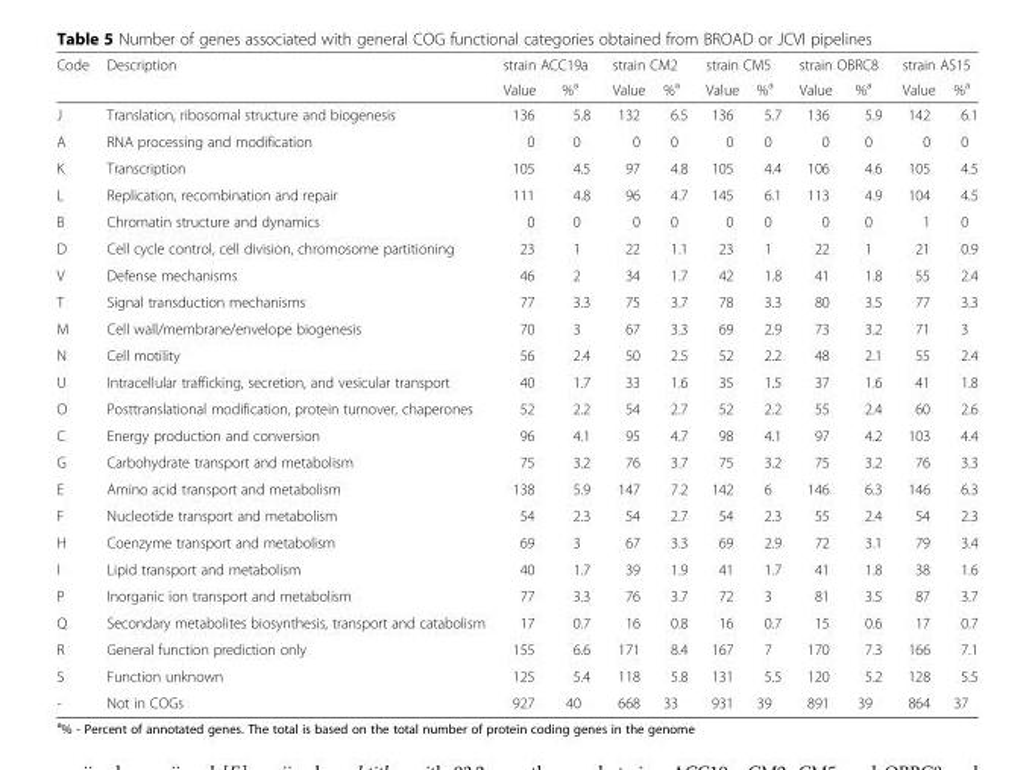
<table><thead><tr><td rowspan="2">Code</td><td rowspan="2">Description</td><td colspan="2">strain ACC19a</td><td colspan="2">strain CM2</td><td colspan="2">strain CM5</td><td colspan="2">strain OBRC8</td><td colspan="2">strain AS15</td></tr><tr><td>Value</td><td>%<sup>a</sup></td><td>Value</td><td>%<sup>a</sup></td><td>Value</td><td>%<sup>a</sup></td><td>Value</td><td>%<sup>a</sup></td><td>Value</td><td>%<sup>a</sup></td></tr></thead><tbody><tr><td>J</td><td>Translation, ribosomal structure and biogenesis</td><td>136</td><td>5.8</td><td>132</td><td>6.5</td><td>136</td><td>5.7</td><td>136</td><td>5.9</td><td>142</td><td>6.1</td></tr><tr><td>A</td><td>RNA processing and modification</td><td>0</td><td>0</td><td>0</td><td>0</td><td>0</td><td>0</td><td>0</td><td>0</td><td>0</td><td>0</td></tr><tr><td>K</td><td>Transcription</td><td>105</td><td>4.5</td><td>97</td><td>4.8</td><td>105</td><td>4.4</td><td>106</td><td>4.6</td><td>105</td><td>4.5</td></tr><tr><td>L</td><td>Replication, recombination and repair</td><td>111</td><td>4.8</td><td>96</td><td>4.7</td><td>145</td><td>6.1</td><td>113</td><td>4.9</td><td>104</td><td>4.5</td></tr><tr><td>B</td><td>Chromatin structure and dynamics</td><td>0</td><td>0</td><td>0</td><td>0</td><td>0</td><td>0</td><td>0</td><td>0</td><td>1</td><td>0</td></tr><tr><td>D</td><td>Cell cycle control, cell division, chromosome partitioning</td><td>23</td><td>1</td><td>22</td><td>1.1</td><td>23</td><td>1</td><td>22</td><td>1</td><td>21</td><td>0.9</td></tr><tr><td>V</td><td>Defense mechanisms</td><td>46</td><td>2</td><td>34</td><td>1.7</td><td>42</td><td>1.8</td><td>41</td><td>1.8</td><td>55</td><td>2.4</td></tr><tr><td>T</td><td>Signal transduction mechanisms</td><td>77</td><td>3.3</td><td>75</td><td>3.7</td><td>78</td><td>3.3</td><td>80</td><td>3.5</td><td>77</td><td>3.3</td></tr><tr><td>M</td><td>Cell wall/membrane/envelope biogenesis</td><td>70</td><td>3</td><td>67</td><td>3.3</td><td>69</td><td>2.9</td><td>73</td><td>3.2</td><td>71</td><td>3</td></tr><tr><td>N</td><td>Cell motility</td><td>56</td><td>2.4</td><td>50</td><td>2.5</td><td>52</td><td>2.2</td><td>48</td><td>2.1</td><td>55</td><td>2.4</td></tr><tr><td>U</td><td>Intracellular trafficking, secretion, and vesicular transport</td><td>40</td><td>1.7</td><td>33</td><td>1.6</td><td>35</td><td>1.5</td><td>37</td><td>1.6</td><td>41</td><td>1.8</td></tr><tr><td>O</td><td>Posttranslational modification, protein turnover, chaperones</td><td>52</td><td>2.2</td><td>54</td><td>2.7</td><td>52</td><td>2.2</td><td>55</td><td>2.4</td><td>60</td><td>2.6</td></tr><tr><td>C</td><td>Energy production and conversion</td><td>96</td><td>4.1</td><td>95</td><td>4.7</td><td>98</td><td>4.1</td><td>97</td><td>4.2</td><td>103</td><td>4.4</td></tr><tr><td>G</td><td>Carbohydrate transport and metabolism</td><td>75</td><td>3.2</td><td>76</td><td>3.7</td><td>75</td><td>3.2</td><td>75</td><td>3.2</td><td>76</td><td>3.3</td></tr><tr><td>E</td><td>Amino acid transport and metabolism</td><td>138</td><td>5.9</td><td>147</td><td>7.2</td><td>142</td><td>6</td><td>146</td><td>6.3</td><td>146</td><td>6.3</td></tr><tr><td>F</td><td>Nucleotide transport and metabolism</td><td>54</td><td>2.3</td><td>54</td><td>2.7</td><td>54</td><td>2.3</td><td>55</td><td>2.4</td><td>54</td><td>2.3</td></tr><tr><td>H</td><td>Coenzyme transport and metabolism</td><td>69</td><td>3</td><td>67</td><td>3.3</td><td>69</td><td>2.9</td><td>72</td><td>3.1</td><td>79</td><td>3.4</td></tr><tr><td>I</td><td>Lipid transport and metabolism</td><td>40</td><td>1.7</td><td>39</td><td>1.9</td><td>41</td><td>1.7</td><td>41</td><td>1.8</td><td>38</td><td>1.6</td></tr><tr><td>P</td><td>Inorganic ion transport and metabolism</td><td>77</td><td>3.3</td><td>76</td><td>3.7</td><td>72</td><td>3</td><td>81</td><td>3.5</td><td>87</td><td>3.7</td></tr><tr><td>Q</td><td>Secondary metabolites biosynthesis, transport and catabolism</td><td>17</td><td>0.7</td><td>16</td><td>0.8</td><td>16</td><td>0.7</td><td>15</td><td>0.6</td><td>17</td><td>0.7</td></tr><tr><td>R</td><td>General function prediction only</td><td>155</td><td>6.6</td><td>171</td><td>8.4</td><td>167</td><td>7</td><td>170</td><td>7.3</td><td>166</td><td>7.1</td></tr><tr><td>S</td><td>Function unknown</td><td>125</td><td>5.4</td><td>118</td><td>5.8</td><td>131</td><td>5.5</td><td>120</td><td>5.2</td><td>128</td><td>5.5</td></tr><tr><td>-</td><td>Not in COGs</td><td>927</td><td>40</td><td>668</td><td>33</td><td>931</td><td>39</td><td>891</td><td>39</td><td>864</td><td>37</td></tr></tbody></table>